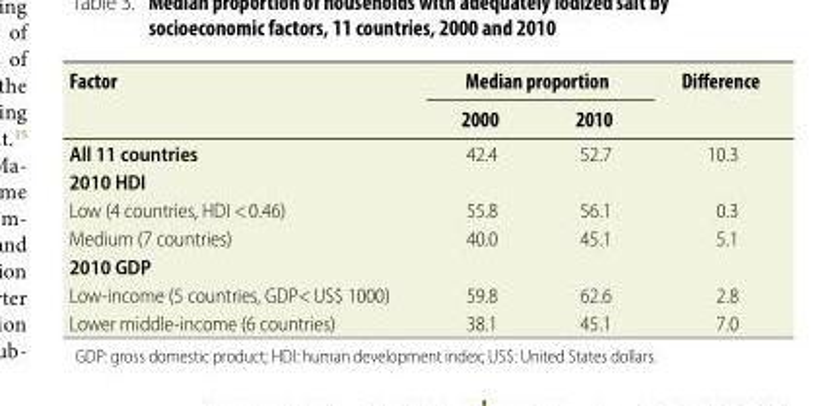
<table><thead><tr><td rowspan="2">Factor</td><td colspan="2">Median proportion</td><td rowspan="2">Difference</td></tr><tr><td>2000</td><td>2010</td></tr></thead><tbody><tr><td>All 11 countries</td><td>42.4</td><td>52.7</td><td>10.3</td></tr><tr><td colspan="4">2010 HDI</td></tr><tr><td>Low (4 countries, HDI &lt; 0.46)</td><td>55.8</td><td>56.1</td><td>0.3</td></tr><tr><td>Medium (7 countries)</td><td>40.0</td><td>45.1</td><td>5.1</td></tr><tr><td colspan="4">2010 GDP</td></tr><tr><td>Low-income (5 countries, GDP&lt; US$ 1000)</td><td>59.8</td><td>62.6</td><td>2.8</td></tr><tr><td>Lower middle-income (6 countries)</td><td>38.1</td><td>45.1</td><td>7.0</td></tr></tbody></table>